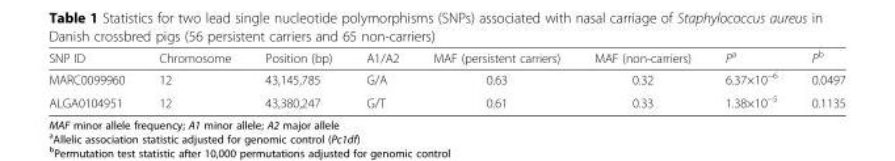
<table><thead><tr><td>SNP ID</td><td>Chromosome</td><td>Position (bp)</td><td>A1/A2</td><td>MAF (persistent carriers)</td><td>MAF (non-carriers)</td><td>P<sup>a</sup></td><td>P<sup>b</sup></td></tr></thead><tbody><tr><td>MARC0099960</td><td>12</td><td>43,145,785</td><td>G/A</td><td>0.63</td><td>0.32</td><td>6.37×10<sup>−6</sup></td><td>0.0497</td></tr><tr><td>ALGA0104951</td><td>12</td><td>43,380,247</td><td>G/T</td><td>0.61</td><td>0.33</td><td>1.38×10<sup>−5</sup></td><td>0.1135</td></tr></tbody></table>